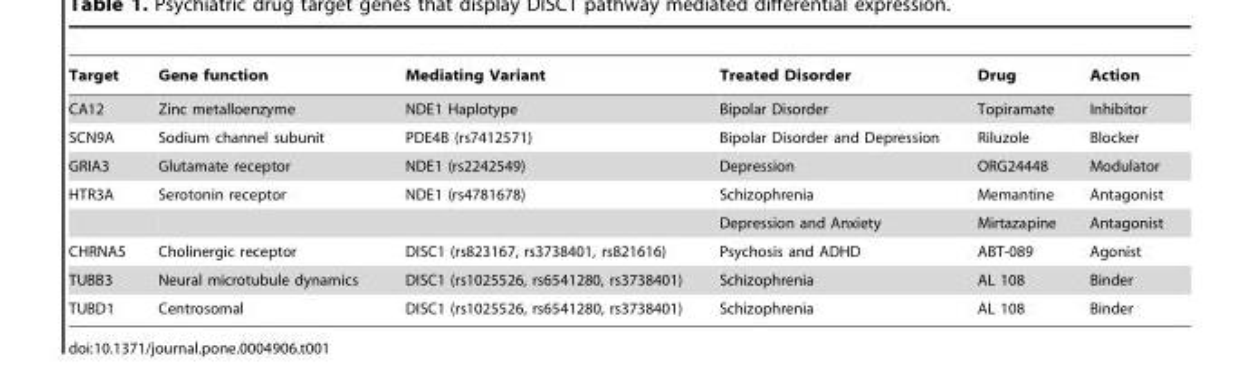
<table><thead><tr><td>Target</td><td>Gene function</td><td>Mediating Variant</td><td>Treated Disorder</td><td>Drug</td><td>Action</td></tr></thead><tbody><tr><td>CA12</td><td>Zinc metalloenzyme</td><td>NDE1 Haplotype</td><td>Bipolar Disorder</td><td>Topiramate</td><td>Inhibitor</td></tr><tr><td>SCN9A</td><td>Sodium channel subunit</td><td>PDE4B (rs7412571)</td><td>Bipolar Disorder and Depression</td><td>Riluzole</td><td>Blocker</td></tr><tr><td>GRIA3</td><td>Glutamate receptor</td><td>NDE1 (rs2242549)</td><td>Depression</td><td>ORG24448</td><td>Modulator</td></tr><tr><td rowspan="2">HTR3A</td><td>Serotonin receptor</td><td>NDE1 (rs4781678)</td><td>Schizophrenia</td><td>Memantine</td><td>Antagonist</td></tr><tr><td></td><td></td><td>Depression and Anxiety</td><td>Mirtazapine</td><td>Antagonist</td></tr><tr><td>CHRNA5</td><td>Cholinergic receptor</td><td>DISC1 (rs823167, rs3738401, rs821616)</td><td>Psychosis and ADHD</td><td>ABT-089</td><td>Agonist</td></tr><tr><td>TUBB3</td><td>Neural microtubule dynamics</td><td>DISC1 (rs1025526, rs6541280, rs3738401)</td><td>Schizophrenia</td><td>AL 108</td><td>Binder</td></tr><tr><td>TUBD1</td><td>Centrosomal</td><td>DISC1 (rs1025526, rs6541280, rs3738401)</td><td>Schizophrenia</td><td>AL 108</td><td>Binder</td></tr></tbody></table>